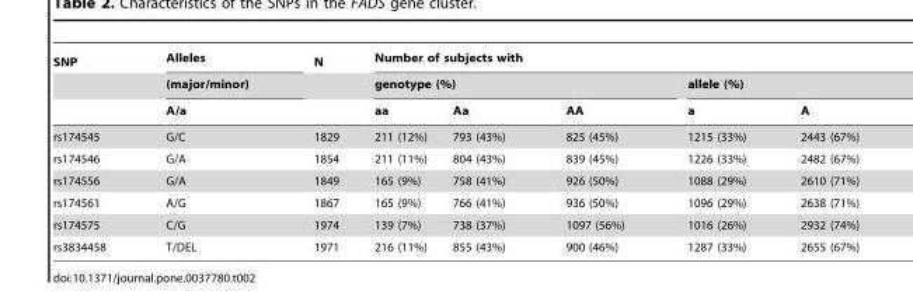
<table><thead><tr><td rowspan="3">SNP</td><td rowspan="3">Alleles (major/minor) A/a</td><td rowspan="3">N</td><td colspan="5">Number of subjects with</td></tr><tr><td colspan="3">genotype (%)</td><td colspan="2">allele (%)</td></tr><tr><td>aa</td><td>Aa</td><td>AA</td><td>a</td><td>A</td></tr></thead><tbody><tr><td>rs174545</td><td>G/C</td><td>1829</td><td>211 (12%)</td><td>793 (43%)</td><td>825 (45%)</td><td>1215 (33%)</td><td>2443 (67%)</td></tr><tr><td>rs174546</td><td>G/A</td><td>1854</td><td>211 (11%)</td><td>804 (43%)</td><td>839 (45%)</td><td>1226 (33%)</td><td>2482 (67%)</td></tr><tr><td>rs174556</td><td>G/A</td><td>1849</td><td>165 (9%)</td><td>758 (41%)</td><td>926 (50%)</td><td>1088 (29%)</td><td>2610 (71%)</td></tr><tr><td>rs174561</td><td>A/G</td><td>1867</td><td>165 (9%)</td><td>766 (41%)</td><td>936 (50%)</td><td>1096 (29%)</td><td>2638 (71%)</td></tr><tr><td>rs174575</td><td>C/G</td><td>1974</td><td>139 (7%)</td><td>738 (37%)</td><td>1097 (56%)</td><td>1016 (26%)</td><td>2932 (74%)</td></tr><tr><td>rs3834458</td><td>T/DEL</td><td>1971</td><td>216 (11%)</td><td>855 (43%)</td><td>900 (46%)</td><td>1287 (33%)</td><td>2655 (67%)</td></tr></tbody></table>